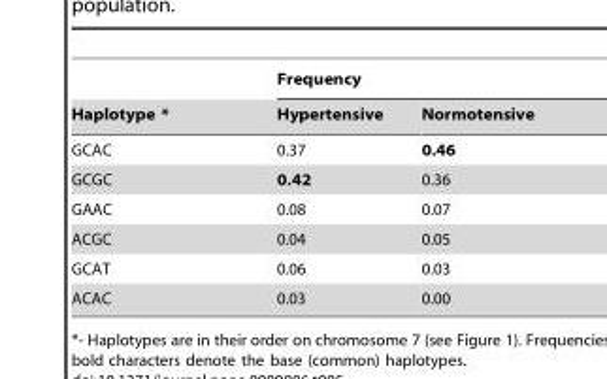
<table><thead><tr><td rowspan="2">Haplotype *</td><td colspan="2">Frequency</td></tr><tr><td>Hypertensive</td><td>Normotensive</td></tr></thead><tbody><tr><td>GCAC</td><td>0.37</td><td>0.46</td></tr><tr><td>GCGC</td><td>0.42</td><td>0.36</td></tr><tr><td>GAAC</td><td>0.08</td><td>0.07</td></tr><tr><td>ACGC</td><td>0.04</td><td>0.05</td></tr><tr><td>GCAT</td><td>0.06</td><td>0.03</td></tr><tr><td>ACAC</td><td>0.03</td><td>0.00</td></tr></tbody></table>